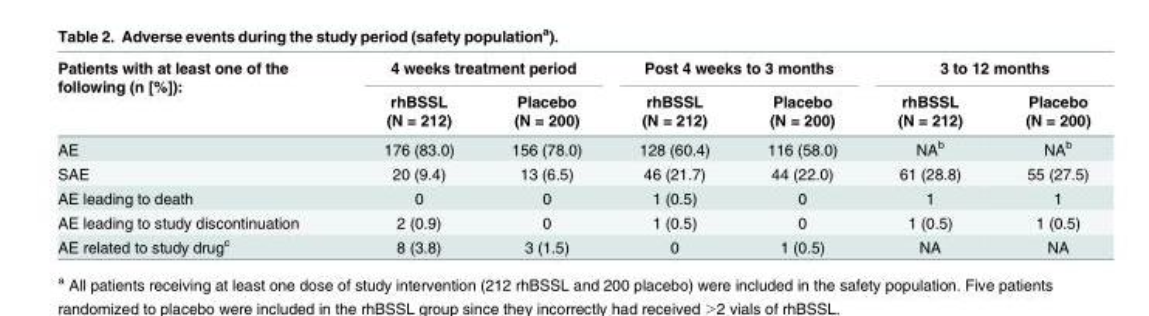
<table><thead><tr><td rowspan="2">Patients with at least one of the following (n [%]):</td><td colspan="2">4 weeks treatment period</td><td colspan="2">Post 4 weeks to 3 months</td><td colspan="2">3 to 12 months</td></tr><tr><td>rhBSSL (N = 212)</td><td>Placebo (N = 200)</td><td>rhBSSL (N = 212)</td><td>Placebo (N = 200)</td><td>rhBSSL (N = 212)</td><td>Placebo (N = 200)</td></tr></thead><tbody><tr><td>AE</td><td>176 (83.0)</td><td>156 (78.0)</td><td>128 (60.4)</td><td>116 (58.0)</td><td>NA<sup>b</sup></td><td>NA<sup>b</sup></td></tr><tr><td>SAE</td><td>20 (9.4)</td><td>13 (6.5)</td><td>46 (21.7)</td><td>44 (22.0)</td><td>61 (28.8)</td><td>55 (27.5)</td></tr><tr><td>AE leading to death</td><td>0</td><td>0</td><td>1 (0.5)</td><td>0</td><td>1</td><td>1</td></tr><tr><td>AE leading to study discontinuation</td><td>2 (0.9)</td><td>0</td><td>1 (0.5)</td><td>0</td><td>1 (0.5)</td><td>1 (0.5)</td></tr><tr><td>AE related to study drug<sup>c</sup></td><td>8 (3.8)</td><td>3 (1.5)</td><td>0</td><td>1 (0.5)</td><td>NA</td><td>NA</td></tr></tbody></table>